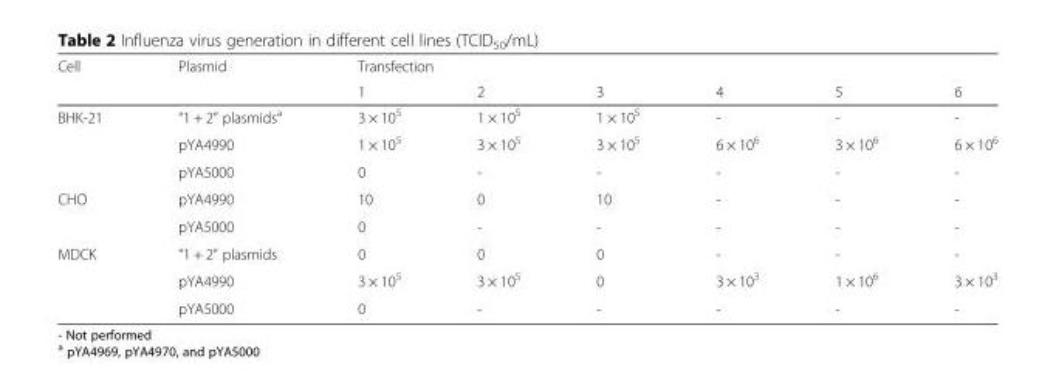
<table><thead><tr><td rowspan="2">Cell</td><td rowspan="2">Plasmid</td><td colspan="6">Transfection</td></tr><tr><td>1</td><td>2</td><td>3</td><td>4</td><td>5</td><td>6</td></tr></thead><tbody><tr><td rowspan="3">BHK-21</td><td>“1 + 2” plasmids<sup>a</sup></td><td>3 × 10<sup>5</sup></td><td>1 × 10<sup>5</sup></td><td>1 × 10<sup>5</sup></td><td>-</td><td>-</td><td>-</td></tr><tr><td>pYA4990</td><td>1 × 10<sup>5</sup></td><td>3 × 10<sup>5</sup></td><td>3 × 10<sup>5</sup></td><td>6 × 10<sup>6</sup></td><td>3 × 10<sup>6</sup></td><td>6 × 10<sup>6</sup></td></tr><tr><td>pYA5000</td><td>0</td><td>-</td><td>-</td><td>-</td><td>-</td><td>-</td></tr><tr><td rowspan="2">CHO</td><td>pYA4990</td><td>10</td><td>0</td><td>10</td><td>-</td><td>-</td><td>-</td></tr><tr><td>pYA5000</td><td>0</td><td>-</td><td>-</td><td>-</td><td>-</td><td>-</td></tr><tr><td rowspan="3">MDCK</td><td>“1 + 2” plasmids</td><td>0</td><td>0</td><td>0</td><td>-</td><td>-</td><td>-</td></tr><tr><td>pYA4990</td><td>3 × 10<sup>5</sup></td><td>3 × 10<sup>5</sup></td><td>0</td><td>3 × 10<sup>3</sup></td><td>1 × 10<sup>6</sup></td><td>3 × 10<sup>3</sup></td></tr><tr><td>pYA5000</td><td>0</td><td>-</td><td>-</td><td>-</td><td>-</td><td>-</td></tr></tbody></table>